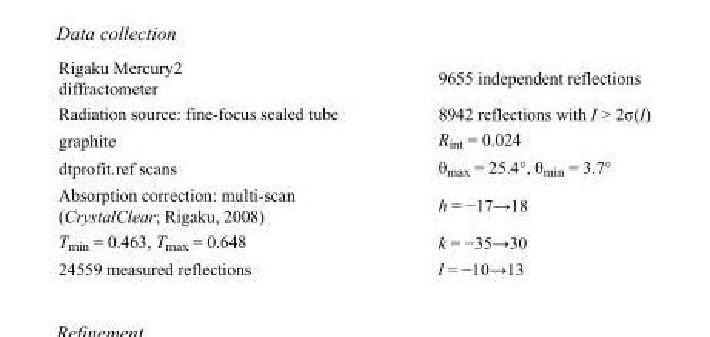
<table><tbody><tr><td>Rigaku Mercury2 diffractometer</td><td>9655 independent reflections</td></tr><tr><td>Radiation source: fine-focus sealed tube</td><td>8942 reflections with I &gt; 2σ(I)</td></tr><tr><td>graphite</td><td>R<sub>int</sub> = 0.024</td></tr><tr><td>dtprofit.ref scans</td><td>θ<sub>max</sub> = 25.4°, θ<sub>min</sub> = 3.7°</td></tr><tr><td>Absorption correction: multi-scan (CrystalClear; Rigaku, 2008)</td><td>h = −17→18</td></tr><tr><td>T<sub>min</sub> = 0.463, T<sub>max</sub> = 0.648</td><td>k = −35→30</td></tr><tr><td>24559 measured reflections</td><td>l = −10→13</td></tr></tbody></table>